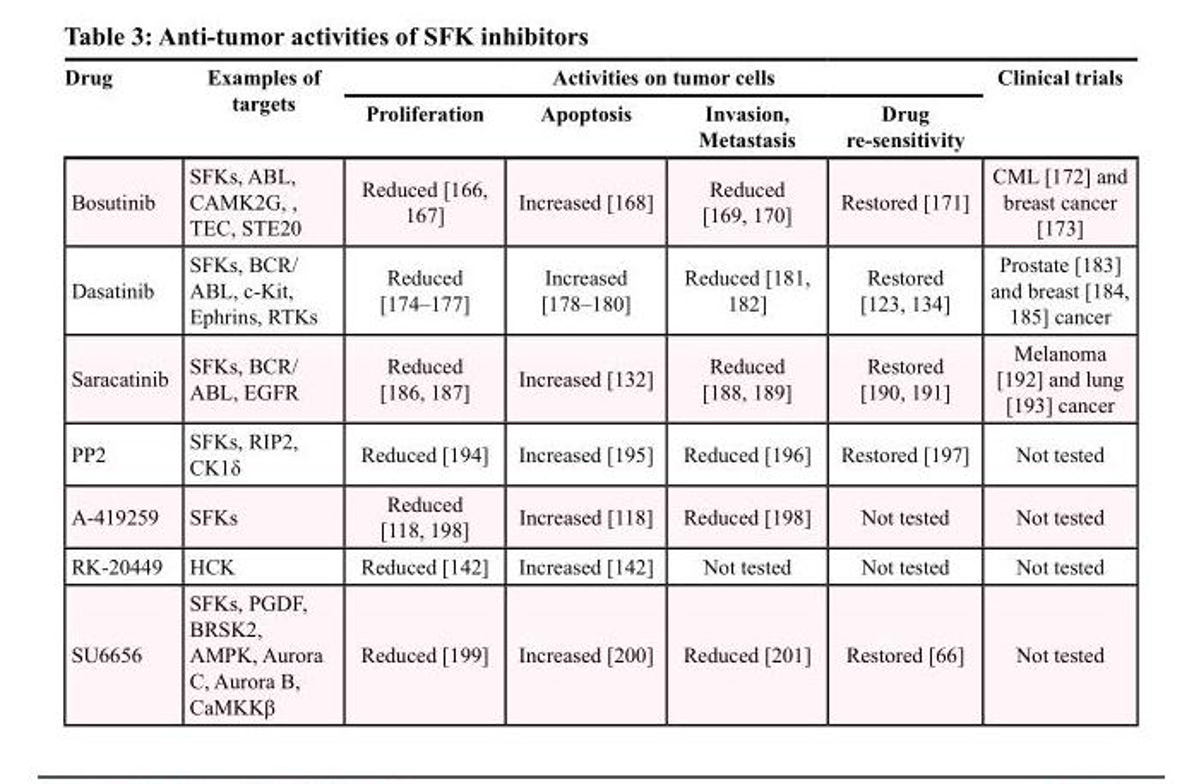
<table><thead><tr><td rowspan="2">Drug</td><td rowspan="2">Examples of targets</td><td colspan="4">Activities on tumor cells</td><td rowspan="2">Clinical trials</td></tr><tr><td>Proliferation</td><td>Apoptosis</td><td>Invasion, Metastasis</td><td>Drug re-sensitivity</td></tr></thead><tbody><tr><td>Bosutinib</td><td>SFKs, ABL, CAMK2G, , TEC, STE20</td><td>Reduced [166, 167]</td><td>Increased [168]</td><td>Reduced [169, 170]</td><td>Restored [171]</td><td>CML [172] and breast cancer [173]</td></tr><tr><td>Dasatinib</td><td>SFKs, BCR/ ABL, c-Kit, Ephrins, RTKs</td><td>Reduced [174–177]</td><td>Increased [178–180]</td><td>Reduced [181, 182]</td><td>Restored [123, 134]</td><td>Prostate [183] and breast [184, 185] cancer</td></tr><tr><td>Saracatinib</td><td>SFKs, BCR/ ABL, EGFR</td><td>Reduced [186, 187]</td><td>Increased [132]</td><td>Reduced [188, 189]</td><td>Restored [190, 191]</td><td>Melanoma [192] and lung [193] cancer</td></tr><tr><td>PP2</td><td>SFKs, RIP2, CK1δ</td><td>Reduced [194]</td><td>Increased [195]</td><td>Reduced [196]</td><td>Restored [197]</td><td>Not tested</td></tr><tr><td>A-419259</td><td>SFKs</td><td>Reduced [118, 198]</td><td>Increased [118]</td><td>Reduced [198]</td><td>Not tested</td><td>Not tested</td></tr><tr><td>RK-20449</td><td>HCK</td><td>Reduced [142]</td><td>Increased [142]</td><td>Not tested</td><td>Not tested</td><td>Not tested</td></tr><tr><td>SU6656</td><td>SFKs, PGDF, BRSK2, AMPK, Aurora C, Aurora B, CaMKKβ</td><td>Reduced [199]</td><td>Increased [200]</td><td>Reduced [201]</td><td>Restored [66]</td><td>Not tested</td></tr></tbody></table>